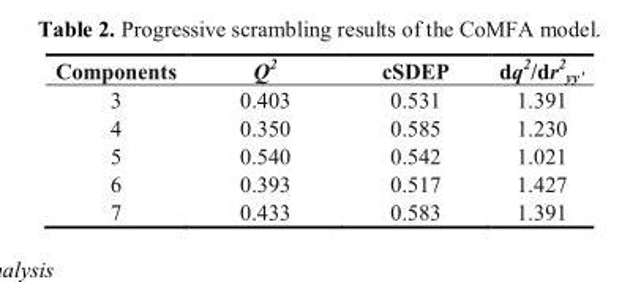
<table><thead><tr><td>Components</td><td>Q<sup>2</sup></td><td>cSDEP</td><td>dq<sup>2</sup>/dr<sup>2</sup> <sub>yy’</sub></td></tr></thead><tbody><tr><td>3</td><td>0.403</td><td>0.531</td><td>1.391</td></tr><tr><td>4</td><td>0.350</td><td>0.585</td><td>1.230</td></tr><tr><td>5</td><td>0.540</td><td>0.542</td><td>1.021</td></tr><tr><td>6</td><td>0.393</td><td>0.517</td><td>1.427</td></tr><tr><td>7</td><td>0.433</td><td>0.583</td><td>1.391</td></tr></tbody></table>